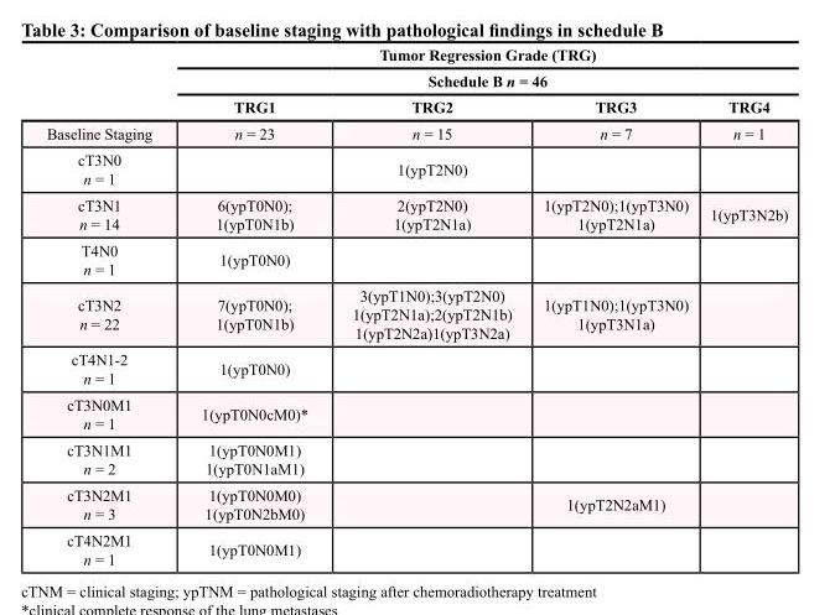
<table><thead><tr><td rowspan="3"></td><td rowspan="2" colspan="4">Tumor Regression Grade (TRG) Schedule B n = 46</td></tr><tr></tr><tr><td>TRG1</td><td>TRG2</td><td>TRG3</td><td>TRG4</td></tr></thead><tbody><tr><td>Baseline Staging</td><td>n = 23</td><td>n = 15</td><td>n = 7</td><td>n = 1</td></tr><tr><td>cT3N0 n = 1</td><td></td><td>1(ypT2N0)</td><td></td><td></td></tr><tr><td>cT3N1 n = 14</td><td>6(ypT0N0); 1(ypT0N1b)</td><td>2(ypT2N0) 1(ypT2N1a)</td><td>1(ypT2N0);1(ypT3N0) 1(ypT2N1a)</td><td>1(ypT3N2b)</td></tr><tr><td>T4N0 n = 1</td><td>1(ypT0N0)</td><td></td><td></td><td></td></tr><tr><td>cT3N2 n = 22</td><td>7(ypT0N0); 1(ypT0N1b)</td><td>3(ypT1N0);3(ypT2N0) 1(ypT2N1a);2(ypT2N1b) 1(ypT2N2a)1(ypT3N2a)</td><td>1(ypT1N0);1(ypT3N0) 1(ypT3N1a)</td><td></td></tr><tr><td>cT4N1-2 n = 1</td><td>1(ypT0N0)</td><td></td><td></td><td></td></tr><tr><td>cT3N0M1 n = 1</td><td>1(ypT0N0cM0)*</td><td></td><td></td><td></td></tr><tr><td>cT3N1M1 n = 2</td><td>1(ypT0N0M1) 1(ypT0N1aM1)</td><td></td><td></td><td></td></tr><tr><td>cT3N2M1 n = 3</td><td>1(ypT0N0M0) 1(ypT0N2bM0)</td><td></td><td>1(ypT2N2aM1)</td><td></td></tr><tr><td>cT4N2M1 n = 1</td><td>1(ypT0N0M1)</td><td></td><td></td><td></td></tr></tbody></table>